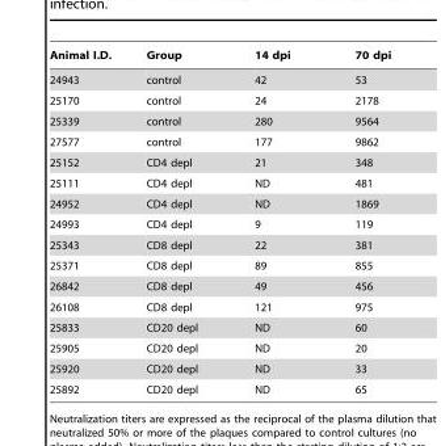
<table><thead><tr><td>Animal I.D.</td><td>Group</td><td>14 dpi</td><td>70 dpi</td></tr></thead><tbody><tr><td>24943</td><td>control</td><td>42</td><td>53</td></tr><tr><td>25170</td><td>control</td><td>24</td><td>2178</td></tr><tr><td>25339</td><td>control</td><td>280</td><td>9564</td></tr><tr><td>27577</td><td>control</td><td>177</td><td>9862</td></tr><tr><td>25152</td><td>CD4 depl</td><td>21</td><td>348</td></tr><tr><td>25111</td><td>CD4 depl</td><td>ND</td><td>481</td></tr><tr><td>24952</td><td>CD4 depl</td><td>ND</td><td>1869</td></tr><tr><td>24993</td><td>CD4 depl</td><td>9</td><td>119</td></tr><tr><td>25343</td><td>CD8 depl</td><td>22</td><td>381</td></tr><tr><td>25371</td><td>CD8 depl</td><td>89</td><td>855</td></tr><tr><td>26842</td><td>CD8 depl</td><td>49</td><td>456</td></tr><tr><td>26108</td><td>CD8 depl</td><td>121</td><td>975</td></tr><tr><td>25833</td><td>CD20 depl</td><td>ND</td><td>60</td></tr><tr><td>25905</td><td>CD20 depl</td><td>ND</td><td>20</td></tr><tr><td>25920</td><td>CD20 depl</td><td>ND</td><td>33</td></tr><tr><td>25892</td><td>CD20 depl</td><td>ND</td><td>65</td></tr></tbody></table>